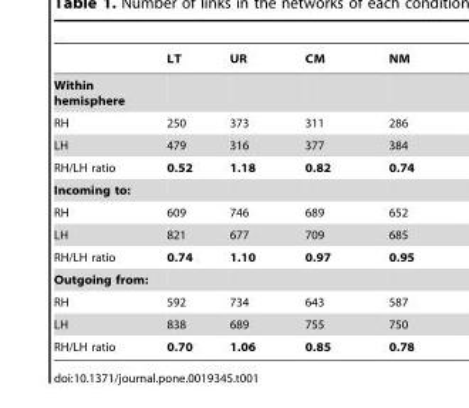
<table><thead><tr><td></td><td>LT</td><td>UR</td><td>CM</td><td>NM</td></tr></thead><tbody><tr><td colspan="5">Within hemisphere</td></tr><tr><td>RH</td><td>250</td><td>373</td><td>311</td><td>286</td></tr><tr><td>LH</td><td>479</td><td>316</td><td>377</td><td>384</td></tr><tr><td>RH/LH ratio</td><td>0.52</td><td>1.18</td><td>0.82</td><td>0.74</td></tr><tr><td colspan="5">Incoming to:</td></tr><tr><td>RH</td><td>609</td><td>746</td><td>689</td><td>652</td></tr><tr><td>LH</td><td>821</td><td>677</td><td>709</td><td>685</td></tr><tr><td>RH/LH ratio</td><td>0.74</td><td>1.10</td><td>0.97</td><td>0.95</td></tr><tr><td colspan="5">Outgoing from:</td></tr><tr><td>RH</td><td>592</td><td>734</td><td>643</td><td>587</td></tr><tr><td>LH</td><td>838</td><td>689</td><td>755</td><td>750</td></tr><tr><td>RH/LH ratio</td><td>0.70</td><td>1.06</td><td>0.85</td><td>0.78</td></tr></tbody></table>